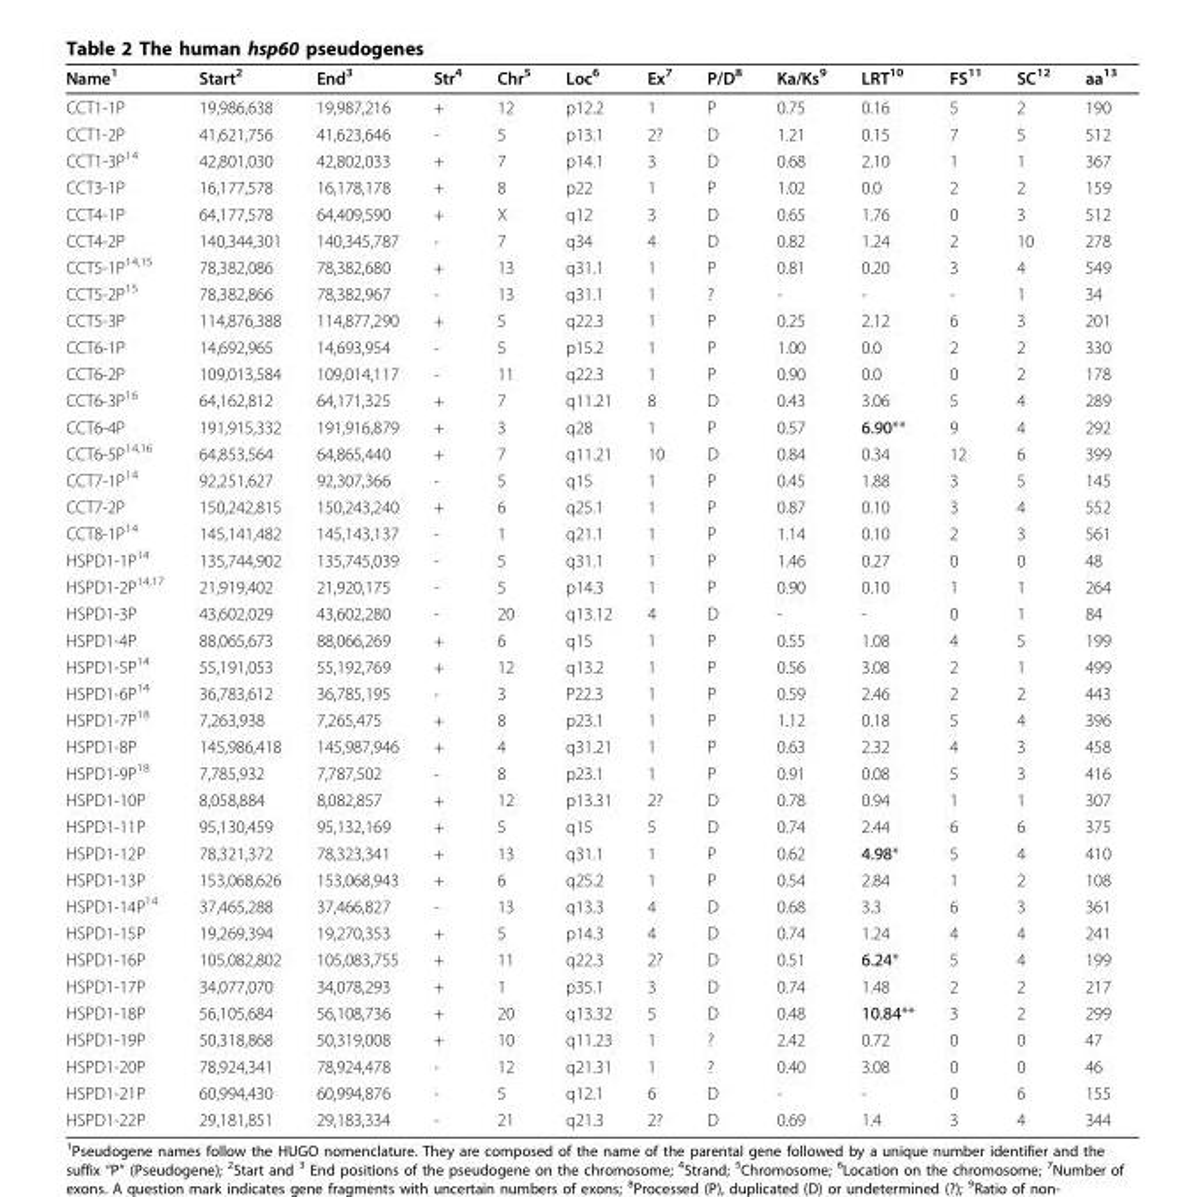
<table><thead><tr><td>Name<sup>1</sup></td><td>Start<sup>2</sup></td><td>End<sup>3</sup></td><td>Str<sup>4</sup></td><td>Chr<sup>5</sup></td><td>Loc<sup>6</sup></td><td>Ex<sup>7</sup></td><td>P/D<sup>8</sup></td><td>Ka/Ks<sup>9</sup></td><td>LRT<sup>10</sup></td><td>FS<sup>11</sup></td><td>SC<sup>12</sup></td><td>aa<sup>13</sup></td></tr></thead><tbody><tr><td>CCT1-1P</td><td>19,986,638</td><td>19,987,216</td><td>+</td><td>12</td><td>p12.2</td><td>1</td><td>P</td><td>0.75</td><td>0.16</td><td>5</td><td>2</td><td>190</td></tr><tr><td>CCT1-2P</td><td>41,621,756</td><td>41,623,646</td><td>-</td><td>5</td><td>p13.1</td><td>2?</td><td>D</td><td>1.21</td><td>0.15</td><td>7</td><td>5</td><td>512</td></tr><tr><td>CCT1-3P<sup>14</sup></td><td>42,801,030</td><td>42,802,033</td><td>+</td><td>7</td><td>p14.1</td><td>3</td><td>D</td><td>0.68</td><td>2.10</td><td>1</td><td>1</td><td>367</td></tr><tr><td>CCT3-1P</td><td>16,177,578</td><td>16,178,178</td><td>+</td><td>8</td><td>p22</td><td>1</td><td>P</td><td>1.02</td><td>0.0</td><td>2</td><td>2</td><td>159</td></tr><tr><td>CCT4-1P</td><td>64,177,578</td><td>64,409,590</td><td>+</td><td>X</td><td>q12</td><td>3</td><td>D</td><td>0.65</td><td>1.76</td><td>0</td><td>3</td><td>512</td></tr><tr><td>CCT4-2P</td><td>140,344,301</td><td>140,345,787</td><td>-</td><td>7</td><td>q34</td><td>4</td><td>D</td><td>0.82</td><td>1.24</td><td>2</td><td>10</td><td>278</td></tr><tr><td>CCT5-1P<sup>14,15</sup></td><td>78,382,086</td><td>78,382,680</td><td>+</td><td>13</td><td>q31.1</td><td>1</td><td>P</td><td>0.81</td><td>0.20</td><td>3</td><td>4</td><td>549</td></tr><tr><td>CCT5-2P<sup>15</sup></td><td>78,382,866</td><td>78,382,967</td><td>-</td><td>13</td><td>q31.1</td><td>1</td><td>?</td><td>-</td><td>-</td><td>-</td><td>1</td><td>34</td></tr><tr><td>CCT5-3P</td><td>114,876,388</td><td>114,877,290</td><td>+</td><td>5</td><td>q22.3</td><td>1</td><td>P</td><td>0.25</td><td>2.12</td><td>6</td><td>3</td><td>201</td></tr><tr><td>CCT6-1P</td><td>14,692,965</td><td>14,693,954</td><td>-</td><td>5</td><td>p15.2</td><td>1</td><td>P</td><td>1.00</td><td>0.0</td><td>2</td><td>2</td><td>330</td></tr><tr><td>CCT6-2P</td><td>109,013,584</td><td>109,014,117</td><td>-</td><td>11</td><td>q22.3</td><td>1</td><td>P</td><td>0.90</td><td>0.0</td><td>0</td><td>2</td><td>178</td></tr><tr><td>CCT6-3P<sup>16</sup></td><td>64,162,812</td><td>64,171,325</td><td>+</td><td>7</td><td>q11.21</td><td>8</td><td>D</td><td>0.43</td><td>3.06</td><td>5</td><td>4</td><td>289</td></tr><tr><td>CCT6-4P</td><td>191,915,332</td><td>191,916,879</td><td>+</td><td>3</td><td>q28</td><td>1</td><td>P</td><td>0.57</td><td>6.90**</td><td>9</td><td>4</td><td>292</td></tr><tr><td>CCT6-5P<sup>14,16</sup></td><td>64,853,564</td><td>64,865,440</td><td>+</td><td>7</td><td>q11.21</td><td>10</td><td>D</td><td>0.84</td><td>0.34</td><td>12</td><td>6</td><td>399</td></tr><tr><td>CCT7-1P<sup>14</sup></td><td>92,251,627</td><td>92,307,366</td><td>-</td><td>5</td><td>q15</td><td>1</td><td>P</td><td>0.45</td><td>1.88</td><td>3</td><td>5</td><td>145</td></tr><tr><td>CCT7-2P</td><td>150,242,815</td><td>150,243,240</td><td>+</td><td>6</td><td>q25.1</td><td>1</td><td>P</td><td>0.87</td><td>0.10</td><td>3</td><td>4</td><td>552</td></tr><tr><td>CCT8-1P<sup>14</sup></td><td>145,141,482</td><td>145,143,137</td><td>-</td><td>1</td><td>q21.1</td><td>1</td><td>P</td><td>1.14</td><td>0.10</td><td>2</td><td>3</td><td>561</td></tr><tr><td>HSPD1-1P<sup>14</sup></td><td>135,744,902</td><td>135,745,039</td><td>-</td><td>5</td><td>q31.1</td><td>1</td><td>P</td><td>1.46</td><td>0.27</td><td>0</td><td>0</td><td>48</td></tr><tr><td>HSPD1-2P<sup>14,17</sup></td><td>21,919,402</td><td>21,920,175</td><td>-</td><td>5</td><td>p14.3</td><td>1</td><td>P</td><td>0.90</td><td>0.10</td><td>1</td><td>1</td><td>264</td></tr><tr><td>HSPD1-3P</td><td>43,602,029</td><td>43,602,280</td><td>-</td><td>20</td><td>q13.12</td><td>4</td><td>D</td><td>-</td><td>-</td><td>0</td><td>1</td><td>84</td></tr><tr><td>HSPD1-4P</td><td>88,065,673</td><td>88,066,269</td><td>+</td><td>6</td><td>q15</td><td>1</td><td>P</td><td>0.55</td><td>1.08</td><td>4</td><td>5</td><td>199</td></tr><tr><td>HSPD1-5P<sup>14</sup></td><td>55,191,053</td><td>55,192,769</td><td>+</td><td>12</td><td>q13.2</td><td>1</td><td>P</td><td>0.56</td><td>3.08</td><td>2</td><td>1</td><td>499</td></tr><tr><td>HSPD1-6P<sup>14</sup></td><td>36,783,612</td><td>36,785,195</td><td>-</td><td>3</td><td>P22.3</td><td>1</td><td>P</td><td>0.59</td><td>2.46</td><td>2</td><td>2</td><td>443</td></tr><tr><td>HSPD1-7P<sup>18</sup></td><td>7,263,938</td><td>7,265,475</td><td>+</td><td>8</td><td>p23.1</td><td>1</td><td>P</td><td>1.12</td><td>0.18</td><td>5</td><td>4</td><td>396</td></tr><tr><td>HSPD1-8P</td><td>145,986,418</td><td>145,987,946</td><td>+</td><td>4</td><td>q31.21</td><td>1</td><td>P</td><td>0.63</td><td>2.32</td><td>4</td><td>3</td><td>458</td></tr><tr><td>HSPD1-9P<sup>18</sup></td><td>7,785,932</td><td>7,787,502</td><td>-</td><td>8</td><td>p23.1</td><td>1</td><td>P</td><td>0.91</td><td>0.08</td><td>5</td><td>3</td><td>416</td></tr><tr><td>HSPD1-10P</td><td>8,058,884</td><td>8,082,857</td><td>+</td><td>12</td><td>p13.31</td><td>2?</td><td>D</td><td>0.78</td><td>0.94</td><td>1</td><td>1</td><td>307</td></tr><tr><td>HSPD1-11P</td><td>95,130,459</td><td>95,132,169</td><td>+</td><td>5</td><td>q15</td><td>5</td><td>D</td><td>0.74</td><td>2.44</td><td>6</td><td>6</td><td>375</td></tr><tr><td>HSPD1-12P</td><td>78,321,372</td><td>78,323,341</td><td>+</td><td>13</td><td>q31.1</td><td>1</td><td>P</td><td>0.62</td><td>4.98*</td><td>5</td><td>4</td><td>410</td></tr><tr><td>HSPD1-13P</td><td>153,068,626</td><td>153,068,943</td><td>+</td><td>6</td><td>q25.2</td><td>1</td><td>P</td><td>0.54</td><td>2.84</td><td>1</td><td>2</td><td>108</td></tr><tr><td>HSPD1-14P<sup>14</sup></td><td>37,465,288</td><td>37,466,827</td><td>-</td><td>13</td><td>q13.3</td><td>4</td><td>D</td><td>0.68</td><td>3.3</td><td>6</td><td>3</td><td>361</td></tr><tr><td>HSPD1-15P</td><td>19,269,394</td><td>19,270,353</td><td>+</td><td>5</td><td>p14.3</td><td>4</td><td>D</td><td>0.74</td><td>1.24</td><td>4</td><td>4</td><td>241</td></tr><tr><td>HSPD1-16P</td><td>105,082,802</td><td>105,083,755</td><td>+</td><td>11</td><td>q22.3</td><td>2?</td><td>D</td><td>0.51</td><td>6.24*</td><td>5</td><td>4</td><td>199</td></tr><tr><td>HSPD1-17P</td><td>34,077,070</td><td>34,078,293</td><td>+</td><td>1</td><td>p35.1</td><td>3</td><td>D</td><td>0.74</td><td>1.48</td><td>2</td><td>2</td><td>217</td></tr><tr><td>HSPD1-18P</td><td>56,105,684</td><td>56,108,736</td><td>+</td><td>20</td><td>q13.32</td><td>5</td><td>D</td><td>0.48</td><td>10.84**</td><td>3</td><td>2</td><td>299</td></tr><tr><td>HSPD1-19P</td><td>50,318,868</td><td>50,319,008</td><td>+</td><td>10</td><td>q11.23</td><td>1</td><td>?</td><td>2.42</td><td>0.72</td><td>0</td><td>0</td><td>47</td></tr><tr><td>HSPD1-20P</td><td>78,924,341</td><td>78,924,478</td><td>-</td><td>12</td><td>q21.31</td><td>1</td><td>?</td><td>0.40</td><td>3.08</td><td>0</td><td>0</td><td>46</td></tr><tr><td>HSPD1-21P</td><td>60,994,430</td><td>60,994,876</td><td>-</td><td>5</td><td>q12.1</td><td>6</td><td>D</td><td>-</td><td>-</td><td>0</td><td>6</td><td>155</td></tr><tr><td>HSPD1-22P</td><td>29,181,851</td><td>29,183,334</td><td>-</td><td>21</td><td>q21.3</td><td>2?</td><td>D</td><td>0.69</td><td>1.4</td><td>3</td><td>4</td><td>344</td></tr></tbody></table>